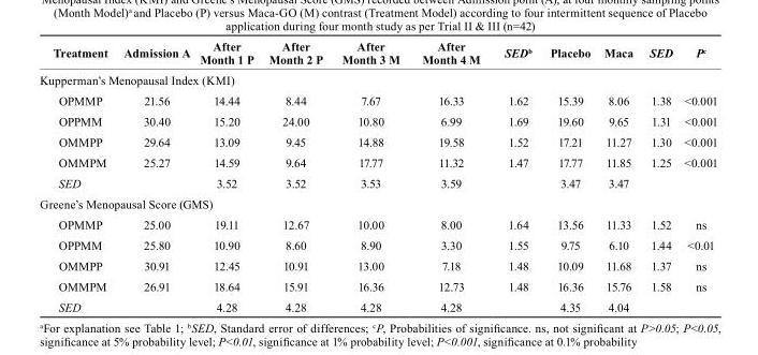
<table><thead><tr><td>treatment</td><td>Admission A</td><td>After Month 1 P</td><td>After Month 2 P</td><td>After Month 3 M</td><td>After Month 4 M</td><td>SED<sup>b</sup></td><td>Placebo</td><td>Maca</td><td>SED</td><td>P<sup>c</sup></td></tr></thead><tbody><tr><td colspan="11">Kupperman’s Menopausal Index (KMI)</td></tr><tr><td>OPMMP</td><td>21.56</td><td>14.44</td><td>8.44</td><td>7.67</td><td>16.33</td><td>1.62</td><td>15.39</td><td>8.06</td><td>1.38</td><td>&lt;0.001</td></tr><tr><td>OPPMM</td><td>30.40</td><td>15.20</td><td>24.00</td><td>10.80</td><td>6.99</td><td>1.69</td><td>19.60</td><td>9.65</td><td>1.31</td><td>&lt;0.001</td></tr><tr><td>OMMPP</td><td>29.64</td><td>13.09</td><td>9.45</td><td>14.88</td><td>19.58</td><td>1.52</td><td>17.21</td><td>11.27</td><td>1.30</td><td>&lt;0.001</td></tr><tr><td>OMMPM</td><td>25.27</td><td>14.59</td><td>9.64</td><td>17.77</td><td>11.32</td><td>1.47</td><td>17.77</td><td>11.85</td><td>1.25</td><td>&lt;0.001</td></tr><tr><td>SED</td><td></td><td>3.52</td><td>3.52</td><td>3.53</td><td>3.59</td><td></td><td>3.47</td><td>3.47</td><td></td><td></td></tr><tr><td colspan="11">Greene’s Menopausal Score (GMS)</td></tr><tr><td>OPMMP</td><td>25.00</td><td>19.11</td><td>12.67</td><td>10.00</td><td>8.00</td><td>1.64</td><td>13.56</td><td>11.33</td><td>1.52</td><td>ns</td></tr><tr><td>OPPMM</td><td>25.80</td><td>10.90</td><td>8.60</td><td>8.90</td><td>3.30</td><td>1.55</td><td>9.75</td><td>6.10</td><td>1.44</td><td>&lt;0.01</td></tr><tr><td>OMMPP</td><td>30.91</td><td>12.45</td><td>10.91</td><td>13.00</td><td>7.18</td><td>1.48</td><td>10.09</td><td>11.68</td><td>1.37</td><td>ns</td></tr><tr><td>OMMPM</td><td>26.91</td><td>18.64</td><td>15.91</td><td>16.36</td><td>12.73</td><td>1.48</td><td>16.36</td><td>15.76</td><td>1.58</td><td>ns</td></tr><tr><td>SED</td><td></td><td>4.28</td><td>4.28</td><td>4.28</td><td>4.28</td><td></td><td>4.35</td><td>4.04</td><td></td><td></td></tr></tbody></table>